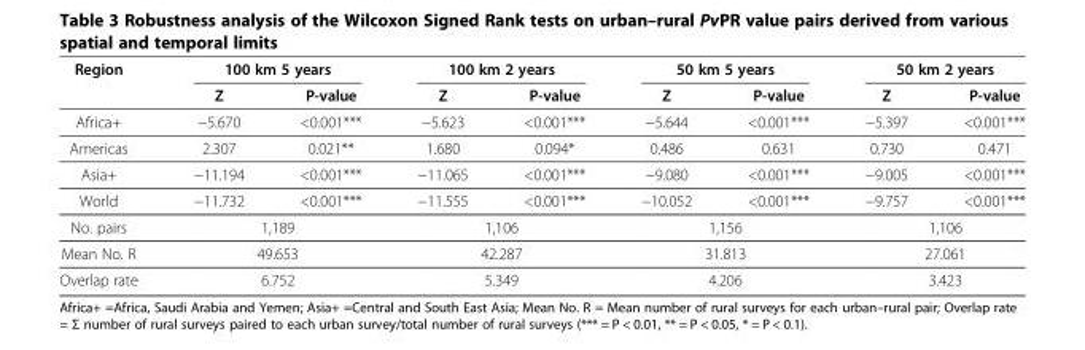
<table><thead><tr><td rowspan="2">Region</td><td colspan="2">100 km 5 years</td><td colspan="2">100 km 2 years</td><td colspan="2">50 km 5 years</td><td colspan="2">50 km 2 years</td></tr><tr><td>Z</td><td>P-value</td><td>Z</td><td>P-value</td><td>Z</td><td>P-value</td><td>Z</td><td>P-value</td></tr></thead><tbody><tr><td>Africa+</td><td>−5.670</td><td>&lt;0.001***</td><td>−5.623</td><td>&lt;0.001***</td><td>−5.644</td><td>&lt;0.001***</td><td>−5.397</td><td>&lt;0.001***</td></tr><tr><td>Americas</td><td>2.307</td><td>0.021**</td><td>1.680</td><td>0.094*</td><td>0.486</td><td>0.631</td><td>0.730</td><td>0.471</td></tr><tr><td>Asia+</td><td>−11.194</td><td>&lt;0.001***</td><td>−11.065</td><td>&lt;0.001***</td><td>−9.080</td><td>&lt;0.001***</td><td>−9.005</td><td>&lt;0.001***</td></tr><tr><td>World</td><td>−11.732</td><td>&lt;0.001***</td><td>−11.555</td><td>&lt;0.001***</td><td>−10.052</td><td>&lt;0.001***</td><td>−9.757</td><td>&lt;0.001***</td></tr><tr><td>No. pairs</td><td colspan="2">1,189</td><td colspan="2">1,106</td><td colspan="2">1,156</td><td colspan="2">1,106</td></tr><tr><td>Mean No. R</td><td colspan="2">49.653</td><td colspan="2">42.287</td><td colspan="2">31.813</td><td colspan="2">27.061</td></tr><tr><td>Overlap rate</td><td colspan="2">6.752</td><td colspan="2">5.349</td><td colspan="2">4.206</td><td colspan="2">3.423</td></tr></tbody></table>